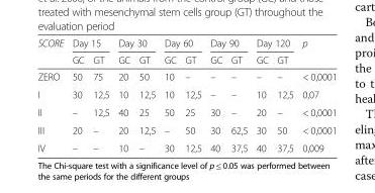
<table><thead><tr><td rowspan="2">SCORE</td><td colspan="2">Day 15</td><td colspan="2">Day 30</td><td colspan="2">Day 60</td><td colspan="2">Day 90</td><td colspan="2">Day 120</td><td rowspan="2">p</td></tr><tr><td>GC</td><td>GT</td><td>GC</td><td>GT</td><td>GC</td><td>GT</td><td>GC</td><td>GT</td><td>GC</td><td>GT</td></tr></thead><tbody><tr><td>ZERO</td><td>50</td><td>75</td><td>20</td><td>50</td><td>10</td><td>–</td><td>–</td><td>–</td><td>–</td><td>–</td><td>&lt; 0,0001</td></tr><tr><td>I</td><td>30</td><td>12,5</td><td>10</td><td>12,5</td><td>10</td><td>12,5</td><td>–</td><td>–</td><td>10</td><td>12,5</td><td>0,07</td></tr><tr><td>II</td><td>–</td><td>12,5</td><td>40</td><td>25</td><td>50</td><td>25</td><td>30</td><td>–</td><td>20</td><td>–</td><td>&lt; 0,0001</td></tr><tr><td>III</td><td>20</td><td>–</td><td>20</td><td>12,5</td><td>–</td><td>50</td><td>30</td><td>62,5</td><td>30</td><td>50</td><td>&lt; 0,0001</td></tr><tr><td>IV</td><td>–</td><td>–</td><td>10</td><td>–</td><td>30</td><td>12,5</td><td>40</td><td>37,5</td><td>40</td><td>37,5</td><td>0,009</td></tr></tbody></table>